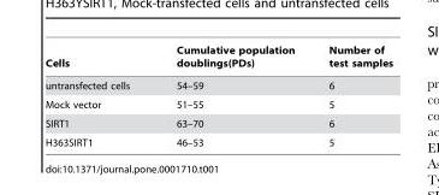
<table><thead><tr><td>Cells</td><td>Cumulative population doublings(PDs)</td><td>Number of test samples</td></tr></thead><tbody><tr><td>untransfected cells</td><td>54–59</td><td>6</td></tr><tr><td>Mock vector</td><td>51–55</td><td>5</td></tr><tr><td>SIRT1</td><td>63–70</td><td>6</td></tr><tr><td>H363SIRT1</td><td>46–53</td><td>5</td></tr></tbody></table>